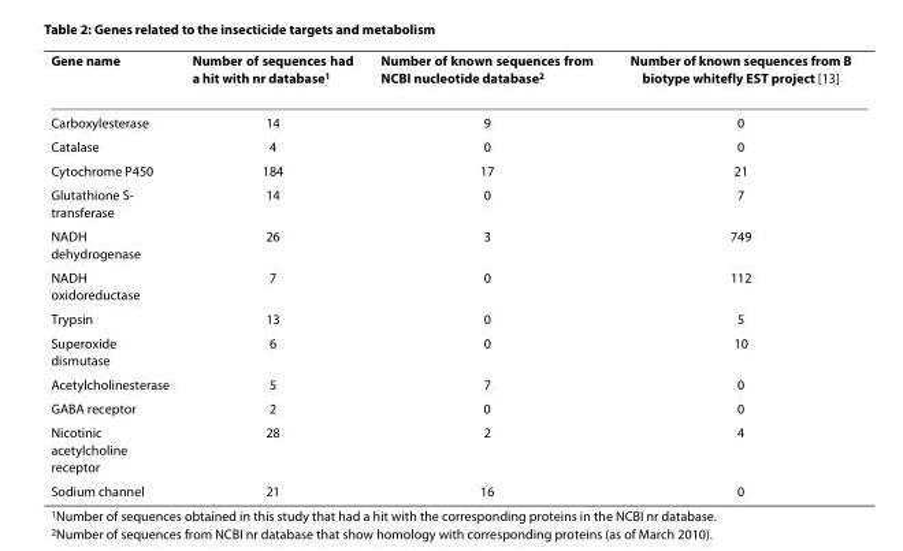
<table><thead><tr><td>Gene name</td><td>Number of sequences had a hit with nr database<sup>1</sup></td><td>Number of known sequences from NCBI nucleotide database<sup>2</sup></td><td>Number of known sequences from B biotype whitefly EST project [13]</td></tr></thead><tbody><tr><td>Carboxylesterase</td><td>14</td><td>9</td><td>0</td></tr><tr><td>Catalase</td><td>4</td><td>0</td><td>0</td></tr><tr><td>Cytochrome P450</td><td>184</td><td>17</td><td>21</td></tr><tr><td>Glutathione S- transferase</td><td>14</td><td>0</td><td>7</td></tr><tr><td>NADH dehydrogenase</td><td>26</td><td>3</td><td>749</td></tr><tr><td>NADH oxidoreductase</td><td>7</td><td>0</td><td>112</td></tr><tr><td>Trypsin</td><td>13</td><td>0</td><td>5</td></tr><tr><td>Superoxide dismutase</td><td>6</td><td>0</td><td>10</td></tr><tr><td>Acetylcholinesterase</td><td>5</td><td>7</td><td>0</td></tr><tr><td>GABA receptor</td><td>2</td><td>0</td><td>0</td></tr><tr><td>Nicotinic acetylcholine receptor</td><td>28</td><td>2</td><td>4</td></tr><tr><td>Sodium channel</td><td>21</td><td>16</td><td>0</td></tr></tbody></table>